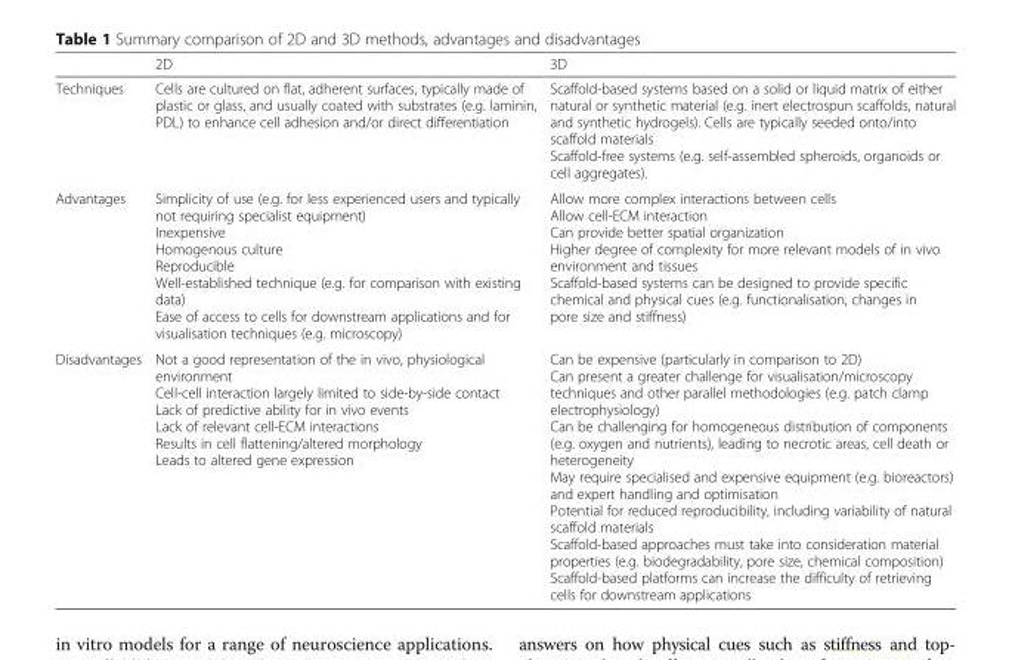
<table><thead><tr><td></td><td>2D</td><td>3D</td></tr></thead><tbody><tr><td>Techniques</td><td>Cells are cultured on flat, adherent surfaces, typically made of plastic or glass, and usually coated with substrates (e.g. laminin, PDL) to enhance cell adhesion and/or direct differentiation</td><td>Scaffold-based systems based on a solid or liquid matrix of either natural or synthetic material (e.g. inert electrospun scaffolds, natural and synthetic hydrogels). Cells are typically seeded onto/into scaffold materials Scaffold-free systems (e.g. self-assembled spheroids, organoids or cell aggregates).</td></tr><tr><td>Advantages</td><td>Simplicity of use (e.g. for less experienced users and typically not requiring specialist equipment) Inexpensive Homogenous culture Reproducible Well-established technique (e.g. for comparison with existing data) Ease of access to cells for downstream applications and for visualisation techniques (e.g. microscopy)</td><td>Allow more complex interactions between cells Allow cell-ECM interaction Can provide better spatial organization Higher degree of complexity for more relevant models of in vivo environment and tissues Scaffold-based systems can be designed to provide specific chemical and physical cues (e.g. functionalisation, changes in pore size and stiffness)</td></tr><tr><td>Disadvantages</td><td>Not a good representation of the in vivo, physiological environment Cell-cell interaction largely limited to side-by-side contact Lack of predictive ability for in vivo events Lack of relevant cell-ECM interactions Results in cell flattening/altered morphology Leads to altered gene expression</td><td>Can be expensive (particularly in comparison to 2D) Can present a greater challenge for visualisation/microscopy techniques and other parallel methodologies (e.g. patch clamp electrophysiology) Can be challenging for homogeneous distribution of components (e.g. oxygen and nutrients), leading to necrotic areas, cell death or heterogeneity May require specialised and expensive equipment (e.g. bioreactors) and expert handling and optimisation Potential for reduced reproducibility, including variability of natural scaffold materials Scaffold-based approaches must take into consideration material properties (e.g. biodegradability, pore size, chemical composition) Scaffold-based platforms can increase the difficulty of retrieving cells for downstream applications</td></tr></tbody></table>